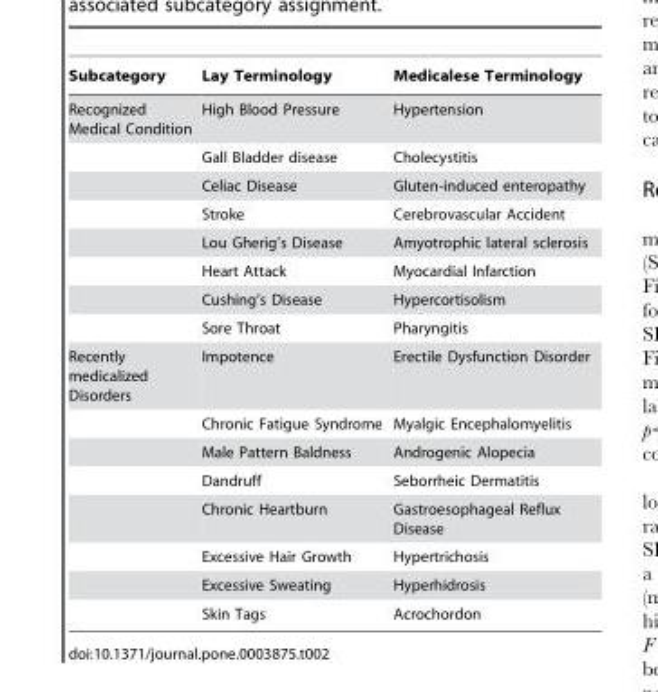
<table><thead><tr><td>Subcategory</td><td>Lay Terminology</td><td>Medicalese Terminology</td></tr></thead><tbody><tr><td rowspan="8">Recognized Medical Condition</td><td>High Blood Pressure</td><td>Hypertension</td></tr><tr><td>Gall Bladder disease</td><td>Cholecystitis</td></tr><tr><td>Celiac Disease</td><td>Gluten-induced enteropathy</td></tr><tr><td>Stroke</td><td>Cerebrovascular Accident</td></tr><tr><td>Lou Gherig’s Disease</td><td>Amyotrophic lateral sclerosis</td></tr><tr><td>Heart Attack</td><td>Myocardial Infarction</td></tr><tr><td>Cushing’s Disease</td><td>Hypercortisolism</td></tr><tr><td>Sore Throat</td><td>Pharyngitis</td></tr><tr><td rowspan="8">Recently medicalized Disorders</td><td>Impotence</td><td>Erectile Dysfunction Disorder</td></tr><tr><td>Chronic Fatigue Syndrome</td><td>Myalgic Encephalomyelitis</td></tr><tr><td>Male Pattern Baldness</td><td>Androgenic Alopecia</td></tr><tr><td>Dandruff</td><td>Seborrheic Dermatitis</td></tr><tr><td>Chronic Heartburn</td><td>Gastroesophageal Reflux Disease</td></tr><tr><td>Excessive Hair Growth</td><td>Hypertrichosis</td></tr><tr><td>Excessive Sweating</td><td>Hyperhidrosis</td></tr><tr><td>Skin Tags</td><td>Acrochordon</td></tr></tbody></table>